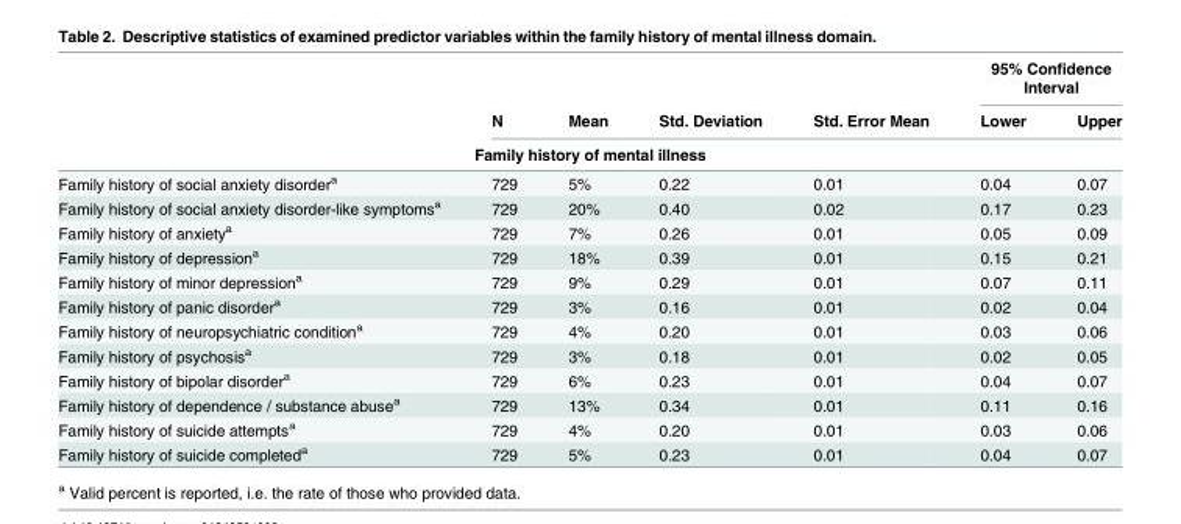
<table><thead><tr><td rowspan="2"></td><td rowspan="2">N</td><td rowspan="2">Mean</td><td rowspan="2">Std. Deviation</td><td rowspan="2">Std. Error Mean</td><td colspan="2">95% Confidence Interval</td></tr><tr><td>Lower</td><td>Upper</td></tr><tr><td colspan="7">Family history of mental illness</td></tr></thead><tbody><tr><td>Family history of social anxiety disorder<sup>a</sup></td><td>729</td><td>5%</td><td>0.22</td><td>0.01</td><td>0.04</td><td>0.07</td></tr><tr><td>Family history of social anxiety disorder-like symptoms<sup>a</sup></td><td>729</td><td>20%</td><td>0.40</td><td>0.02</td><td>0.17</td><td>0.23</td></tr><tr><td>Family history of anxiety<sup>a</sup></td><td>729</td><td>7%</td><td>0.26</td><td>0.01</td><td>0.05</td><td>0.09</td></tr><tr><td>Family history of depression<sup>a</sup></td><td>729</td><td>18%</td><td>0.39</td><td>0.01</td><td>0.15</td><td>0.21</td></tr><tr><td>Family history of minor depression<sup>a</sup></td><td>729</td><td>9%</td><td>0.29</td><td>0.01</td><td>0.07</td><td>0.11</td></tr><tr><td>Family history of panic disorder<sup>a</sup></td><td>729</td><td>3%</td><td>0.16</td><td>0.01</td><td>0.02</td><td>0.04</td></tr><tr><td>Family history of neuropsychiatric condition<sup>a</sup></td><td>729</td><td>4%</td><td>0.20</td><td>0.01</td><td>0.03</td><td>0.06</td></tr><tr><td>Family history of psychosis<sup>a</sup></td><td>729</td><td>3%</td><td>0.18</td><td>0.01</td><td>0.02</td><td>0.05</td></tr><tr><td>Family history of bipolar disorder<sup>a</sup></td><td>729</td><td>6%</td><td>0.23</td><td>0.01</td><td>0.04</td><td>0.07</td></tr><tr><td>Family history of dependence / substance abuse<sup>a</sup></td><td>729</td><td>13%</td><td>0.34</td><td>0.01</td><td>0.11</td><td>0.16</td></tr><tr><td>Family history of suicide attempts<sup>a</sup></td><td>729</td><td>4%</td><td>0.20</td><td>0.01</td><td>0.03</td><td>0.06</td></tr><tr><td>Family history of suicide completed<sup>a</sup></td><td>729</td><td>5%</td><td>0.23</td><td>0.01</td><td>0.04</td><td>0.07</td></tr></tbody></table>